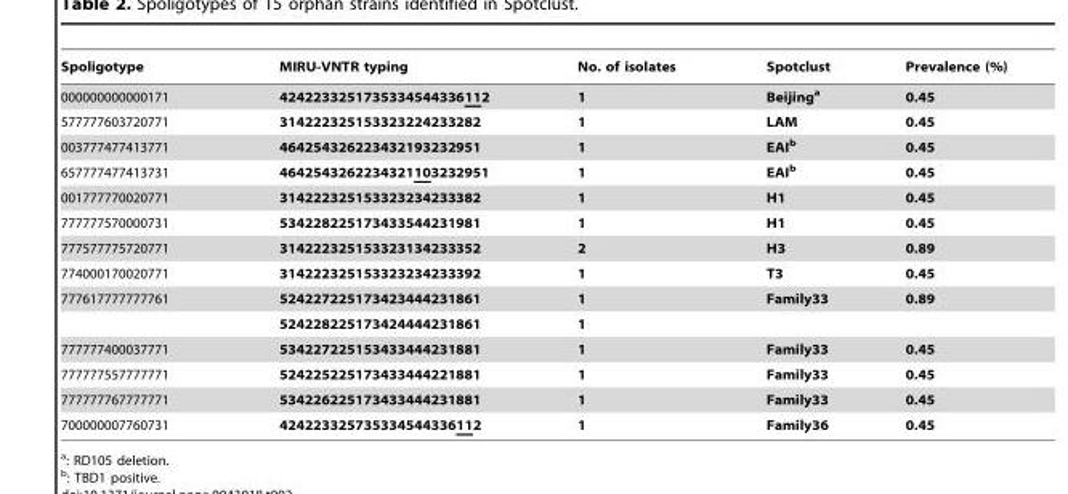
<table><thead><tr><td>Spoligotype</td><td>MIRU-VNTR typing</td><td>No. of isolates</td><td>Spotclust</td><td>Prevalence (%)</td></tr></thead><tbody><tr><td>000000000000171</td><td>4242233251735334544336112</td><td>1</td><td>Beijinga</td><td>0.45</td></tr><tr><td>577777603720771</td><td>314222325153323224233282</td><td>1</td><td>LAM</td><td>0.45</td></tr><tr><td>003777477413771</td><td>464254326223432193232951</td><td>1</td><td>EAIb</td><td>0.45</td></tr><tr><td>657777477413731</td><td>4642543262234321103232951</td><td>1</td><td>EAIb</td><td>0.45</td></tr><tr><td>001777770020771</td><td>314222325153323234233382</td><td>1</td><td>H1</td><td>0.45</td></tr><tr><td>777777570000731</td><td>534228225173433544231981</td><td>1</td><td>H1</td><td>0.45</td></tr><tr><td>777577775720771</td><td>314222325153323134233352</td><td>2</td><td>H3</td><td>0.89</td></tr><tr><td>774000170020771</td><td>314222325153323234233392</td><td>1</td><td>T3</td><td>0.45</td></tr><tr><td rowspan="2">777617777777761</td><td>524227225173423444231861</td><td>1</td><td>Family33</td><td>0.89</td></tr><tr><td>524228225173424444231861</td><td>1</td><td></td><td></td></tr><tr><td>777777400037771</td><td>534227225153433444231881</td><td>1</td><td>Family33</td><td>0.45</td></tr><tr><td>777777557777771</td><td>524225225173433444221881</td><td>1</td><td>Family33</td><td>0.45</td></tr><tr><td>777777767777771</td><td>534226225173433444231881</td><td>1</td><td>Family33</td><td>0.45</td></tr><tr><td>700000007760731</td><td>424223325735334544336112</td><td>1</td><td>Family36</td><td>0.45</td></tr></tbody></table>